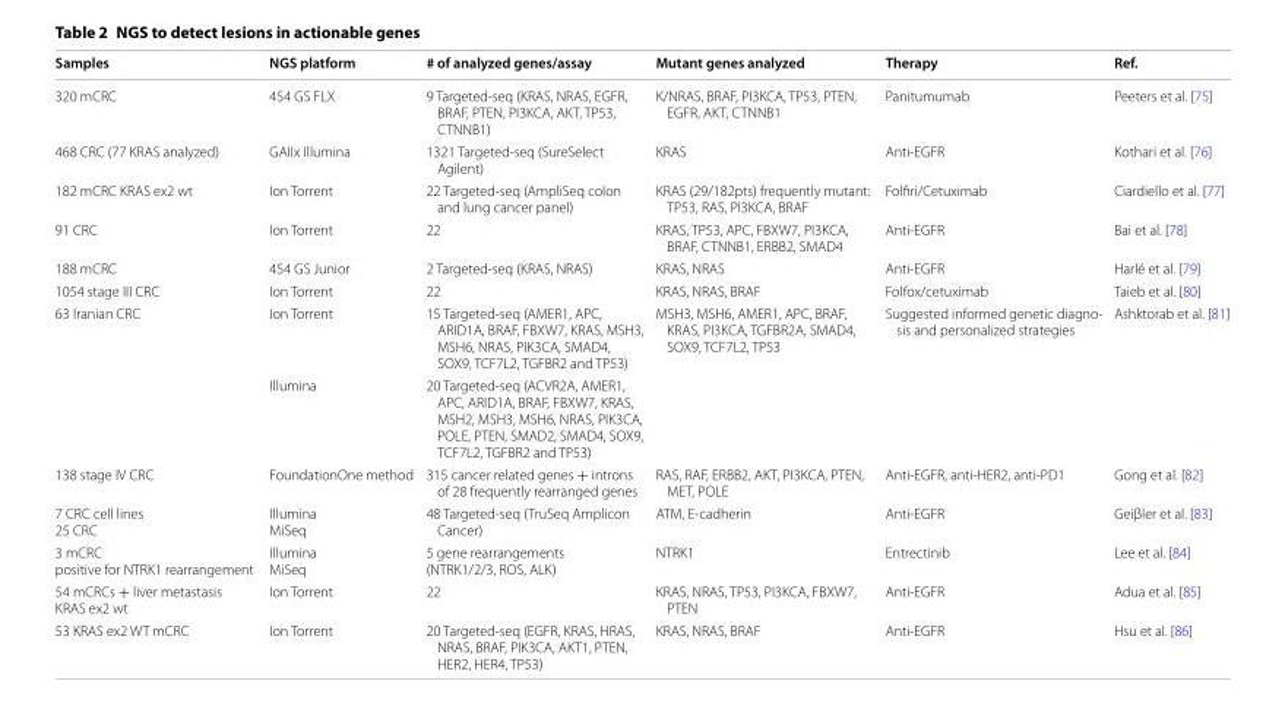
<table><thead><tr><td>Samples</td><td>NGS platform</td><td># of analyzed genes/assay</td><td>Mutant genes analyzed</td><td>Therapy</td><td>Ref.</td></tr></thead><tbody><tr><td>320 mCRC</td><td>454 GS FLX</td><td>9 Targeted-seq (KRAS, NRAS, EGFR, BRAF, PTEN, PI3KCA, AKT, TP53, CTNNB1)</td><td>K/NRAS, BRAF, PI3KCA, TP53, PTEN, EGFR, AKT, CTNNB1</td><td>Panitumumab</td><td>Peeters et al. [75]</td></tr><tr><td>468 CRC (77 KRAS analyzed)</td><td>GAIIx Illumina</td><td>1321 Targeted-seq (SureSelect Agilent)</td><td>KRAS</td><td>Anti-EGFR</td><td>Kothari et al. [76]</td></tr><tr><td>182 mCRC KRAS ex2 wt</td><td>Ion Torrent</td><td>22 Targeted-seq (AmpliSeq colon and lung cancer panel)</td><td>KRAS (29/182pts) frequently mutant: TP53, RAS, PI3KCA, BRAF</td><td>Folfiri/Cetuximab</td><td>Ciardiello et al. [77]</td></tr><tr><td>91 CRC</td><td>Ion Torrent</td><td>22</td><td>KRAS, TP53, APC, FBXW7, PI3KCA, BRAF, CTNNB1, ERBB2, SMAD4</td><td>Anti-EGFR</td><td>Bai et al. [78]</td></tr><tr><td>188 mCRC</td><td>454 GS Junior</td><td>2 Targeted-seq (KRAS, NRAS)</td><td>KRAS, NRAS</td><td>Anti-EGFR</td><td>Harlé et al. [79]</td></tr><tr><td>1054 stage III CRC</td><td>Ion Torrent</td><td>22</td><td>KRAS, NRAS, BRAF</td><td>Folfox/cetuximab</td><td>Taieb et al. [80]</td></tr><tr><td rowspan="2">63 Iranian CRC</td><td>Ion Torrent</td><td>15 Targeted-seq (AMER1, APC, ARID1A, BRAF, FBXW7, KRAS, MSH3, MSH6, NRAS, PIK3CA, SMAD4, SOX9, TCF7L2, TGFBR2 and TP53)</td><td>MSH3, MSH6, AMER1, APC, BRAF, KRAS, PI3KCA, TGFBR2A, SMAD4, SOX9, TCF7L2, TP53</td><td>Suggested informed genetic diagno- sis and personalized strategies</td><td>Ashktorab et al. [81]</td></tr><tr><td>Illumina</td><td>20 Targeted-seq (ACVR2A, AMER1, APC, ARID1A, BRAF, FBXW7, KRAS, MSH2, MSH3, MSH6, NRAS, PIK3CA, POLE, PTEN, SMAD2, SMAD4, SOX9, TCF7L2, TGFBR2 and TP53)</td><td></td><td></td><td></td></tr><tr><td>138 stage IV CRC</td><td>FoundationOne method</td><td>315 cancer related genes + introns of 28 frequently rearranged genes</td><td>RAS, RAF, ERBB2, AKT, PI3KCA, PTEN, MET, POLE</td><td>Anti-EGFR, anti-HER2, anti-PD1</td><td>Gong et al. [82]</td></tr><tr><td>7 CRC cell lines 25 CRC</td><td>Illumina MiSeq</td><td>48 Targeted-seq (TruSeq Amplicon Cancer)</td><td>ATM, E-cadherin</td><td>Anti-EGFR</td><td>Geiβler et al. [83]</td></tr><tr><td>3 mCRC positive for NTRK1 rearrangement</td><td>Illumina MiSeq</td><td>5 gene rearrangements (NTRK1/2/3, ROS, ALK)</td><td>NTRK1</td><td>Entrectinib</td><td>Lee et al. [84]</td></tr><tr><td>54 mCRCs + liver metastasis KRAS ex2 wt</td><td>Ion Torrent</td><td>22</td><td>KRAS, NRAS, TP53, PI3KCA, FBXW7, PTEN</td><td>Anti-EGFR</td><td>Adua et al. [85]</td></tr><tr><td>53 KRAS ex2 WT mCRC</td><td>Ion Torrent</td><td>20 Targeted-seq (EGFR, KRAS, HRAS, NRAS, BRAF, PIK3CA, AKT1, PTEN, HER2, HER4, TP53)</td><td>KRAS, NRAS, BRAF</td><td>Anti-EGFR</td><td>Hsu et al. [86]</td></tr></tbody></table>